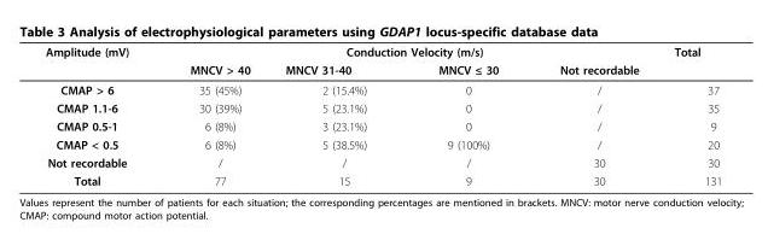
<table><thead><tr><td rowspan="2">Amplitude (mV)</td><td colspan="4">Conduction Velocity (m/s)</td><td rowspan="2">Total</td></tr><tr><td>MNCV &gt; 40</td><td>MNCV 31-40</td><td>MNCV ≤ 30</td><td>Not recordable</td></tr></thead><tbody><tr><td>CMAP &gt; 6</td><td>35 (45%)</td><td>2 (15.4%)</td><td>0</td><td>/</td><td>37</td></tr><tr><td>CMAP 1.1-6</td><td>30 (39%)</td><td>5 (23.1%)</td><td>0</td><td>/</td><td>35</td></tr><tr><td>CMAP 0.5-1</td><td>6 (8%)</td><td>3 (23.1%)</td><td>0</td><td>/</td><td>9</td></tr><tr><td>CMAP &lt; 0.5</td><td>6 (8%)</td><td>5 (38.5%)</td><td>9 (100%)</td><td>/</td><td>20</td></tr><tr><td>Not recordable</td><td>/</td><td>/</td><td>/</td><td>30</td><td>30</td></tr><tr><td>Total</td><td>77</td><td>15</td><td>9</td><td>30</td><td>131</td></tr></tbody></table>